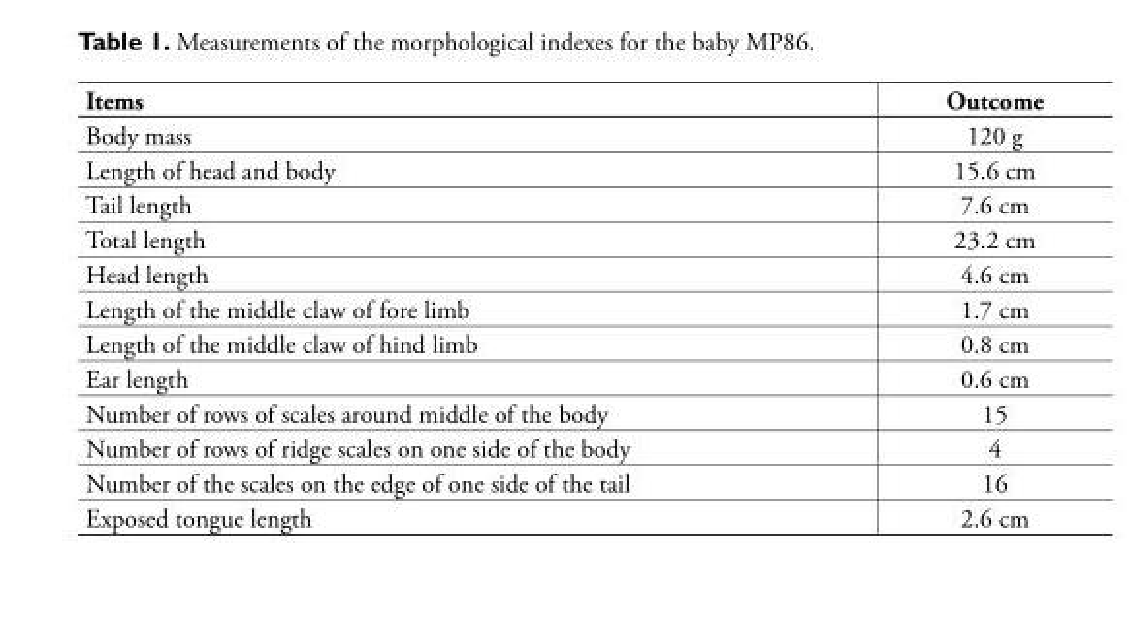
<table><thead><tr><td>Items</td><td>Outcome</td></tr></thead><tbody><tr><td>Body mass</td><td>120 g</td></tr><tr><td>Length of head and body</td><td>15.6 cm</td></tr><tr><td>Tail length</td><td>7.6 cm</td></tr><tr><td>Total length</td><td>23.2 cm</td></tr><tr><td>Head length</td><td>4.6 cm</td></tr><tr><td>Length of the middle claw of fore limb</td><td>1.7 cm</td></tr><tr><td>Length of the middle claw of hind limb</td><td>0.8 cm</td></tr><tr><td>Ear length</td><td>0.6 cm</td></tr><tr><td>Number of rows of scales around middle of the body</td><td>15</td></tr><tr><td>Number of rows of ridge scales on one side of the body</td><td>4</td></tr><tr><td>Number of the scales on the edge of one side of the tail</td><td>16</td></tr><tr><td>Exposed tongue length</td><td>2.6 cm</td></tr></tbody></table>